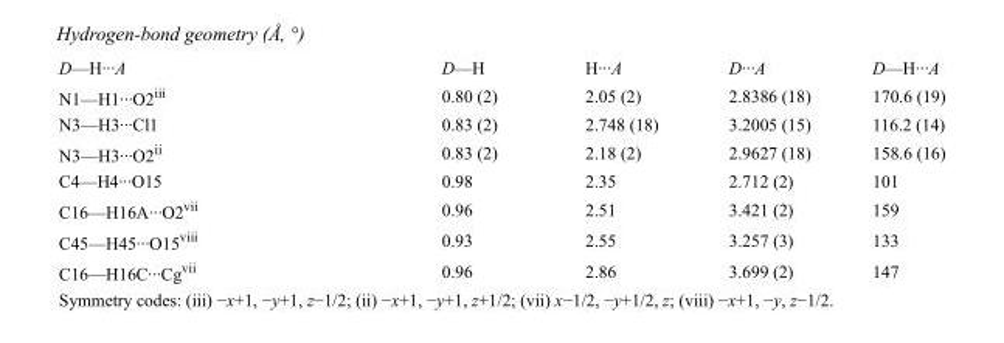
<table><tbody><tr><td>D—H···A</td><td>D—H</td><td>H···A</td><td>D···A</td><td>D—H···A</td></tr><tr><td>N1—H1···O2<sup>iii</sup></td><td>0.80 (2)</td><td>2.05 (2)</td><td>2.8386 (18)</td><td>170.6 (19)</td></tr><tr><td>N3—H3···Cl1</td><td>0.83 (2)</td><td>2.748 (18)</td><td>3.2005 (15)</td><td>116.2 (14)</td></tr><tr><td>N3—H3···O2<sup>ii</sup></td><td>0.83 (2)</td><td>2.18 (2)</td><td>2.9627 (18)</td><td>158.6 (16)</td></tr><tr><td>C4—H4···O15</td><td>0.98</td><td>2.35</td><td>2.712 (2)</td><td>101</td></tr><tr><td>C16—H16A···O2<sup>vii</sup></td><td>0.96</td><td>2.51</td><td>3.421 (2)</td><td>159</td></tr><tr><td>C45—H45···O15<sup>viii</sup></td><td>0.93</td><td>2.55</td><td>3.257 (3)</td><td>133</td></tr><tr><td>C16—H16C···Cg<sup>vii</sup></td><td>0.96</td><td>2.86</td><td>3.699 (2)</td><td>147</td></tr></tbody></table>